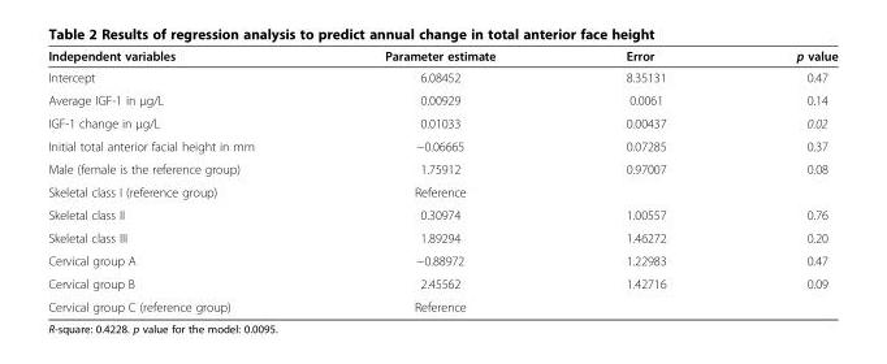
<table><thead><tr><td>Independent variables</td><td>Parameter estimate</td><td>Error</td><td>p value</td></tr></thead><tbody><tr><td>Intercept</td><td>6.08452</td><td>8.35131</td><td>0.47</td></tr><tr><td>Average IGF-1 in μg/L</td><td>0.00929</td><td>0.0061</td><td>0.14</td></tr><tr><td>IGF-1 change in μg/L</td><td>0.01033</td><td>0.00437</td><td>0.02</td></tr><tr><td>Initial total anterior facial height in mm</td><td>−0.06665</td><td>0.07285</td><td>0.37</td></tr><tr><td>Male (female is the reference group)</td><td>1.75912</td><td>0.97007</td><td>0.08</td></tr><tr><td>Skeletal class I (reference group)</td><td>Reference</td><td></td><td></td></tr><tr><td>Skeletal class II</td><td>0.30974</td><td>1.00557</td><td>0.76</td></tr><tr><td>Skeletal class III</td><td>1.89294</td><td>1.46272</td><td>0.20</td></tr><tr><td>Cervical group A</td><td>−0.88972</td><td>1.22983</td><td>0.47</td></tr><tr><td>Cervical group B</td><td>2.45562</td><td>1.42716</td><td>0.09</td></tr><tr><td>Cervical group C (reference group)</td><td>Reference</td><td></td><td></td></tr></tbody></table>